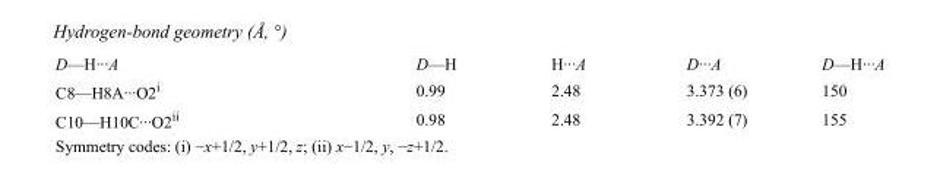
<table><tbody><tr><td>D—H···A</td><td>D—H</td><td>H···A</td><td>D···A</td><td>D—H···A</td></tr><tr><td>C8—H8A···O2<sup>i</sup></td><td>0.99</td><td>2.48</td><td>3.373 (6)</td><td>150</td></tr><tr><td>C10—H10C···O2<sup>ii</sup></td><td>0.98</td><td>2.48</td><td>3.392 (7)</td><td>155</td></tr></tbody></table>